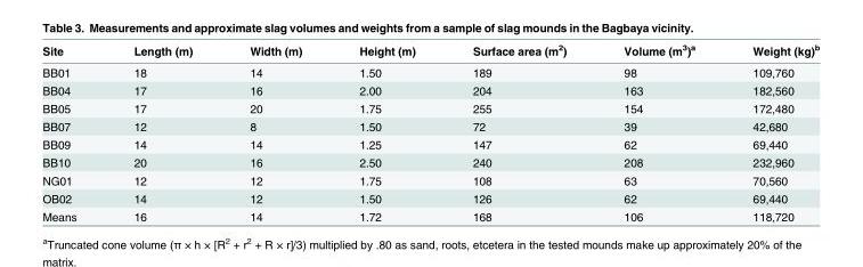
<table><thead><tr><td>Site</td><td>Length (m)</td><td>Width (m)</td><td>Height (m)</td><td>Surface area (m<sup>2</sup>)</td><td>Volume (m<sup>3</sup>)<sup>a</sup></td><td>Weight (kg)<sup>b</sup></td></tr></thead><tbody><tr><td>BB01</td><td>18</td><td>14</td><td>1.50</td><td>189</td><td>98</td><td>109,760</td></tr><tr><td>BB04</td><td>17</td><td>16</td><td>2.00</td><td>204</td><td>163</td><td>182,560</td></tr><tr><td>BB05</td><td>17</td><td>20</td><td>1.75</td><td>255</td><td>154</td><td>172,480</td></tr><tr><td>BB07</td><td>12</td><td>8</td><td>1.50</td><td>72</td><td>39</td><td>42,680</td></tr><tr><td>BB09</td><td>14</td><td>14</td><td>1.25</td><td>147</td><td>62</td><td>69,440</td></tr><tr><td>BB10</td><td>20</td><td>16</td><td>2.50</td><td>240</td><td>208</td><td>232,960</td></tr><tr><td>NG01</td><td>12</td><td>12</td><td>1.75</td><td>108</td><td>63</td><td>70,560</td></tr><tr><td>OB02</td><td>14</td><td>12</td><td>1.50</td><td>126</td><td>62</td><td>69,440</td></tr><tr><td>Means</td><td>16</td><td>14</td><td>1.72</td><td>168</td><td>106</td><td>118,720</td></tr></tbody></table>